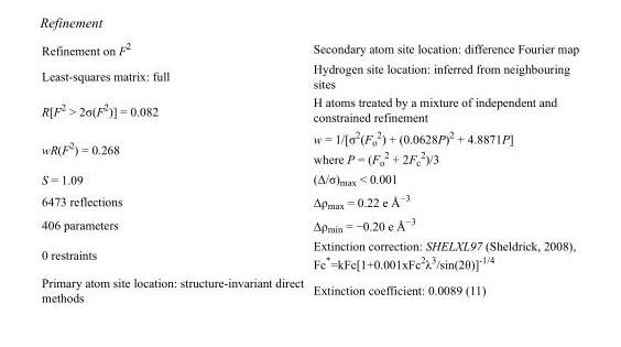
<table><tbody><tr><td>Refinement on F<sup>2</sup></td><td>Secondary atom site location: difference Fourier map</td></tr><tr><td>Least-squares matrix: full</td><td>Hydrogen site location: inferred from neighbouring sites</td></tr><tr><td>R[F<sup>2</sup> &gt; 2σ(F<sup>2</sup>)] = 0.082</td><td>H atoms treated by a mixture of independent and constrained refinement</td></tr><tr><td>wR(F<sup>2</sup>) = 0.268</td><td>w = 1/[σ<sup>2</sup>(F<sub>o</sub> <sup>2</sup>) + (0.0628P)<sup>2</sup> + 4.8871P] where P = (F<sub>o</sub> <sup>2</sup> + 2F<sub>c</sub> <sup>2</sup>)/3</td></tr><tr><td>S = 1.09</td><td>(Δ/σ)<sub>max</sub> &lt; 0.001</td></tr><tr><td>6473 reflections</td><td>Δρ<sub>max</sub> = 0.22 e Å<sup>−3</sup></td></tr><tr><td>406 parameters</td><td>Δρ<sub>min</sub> = −0.20 e Å<sup>−3</sup></td></tr><tr><td>0 restraints</td><td>Extinction correction: SHELXL97 (Sheldrick, 2008), Fc*=kFc[1+0.001xFc<sup>2</sup>λ<sup>3</sup>/sin(2θ)]<sup>-1/4</sup></td></tr><tr><td>Primary atom site location: structure-invariant direct methods</td><td>Extinction coefficient: 0.0089 (11)</td></tr></tbody></table>